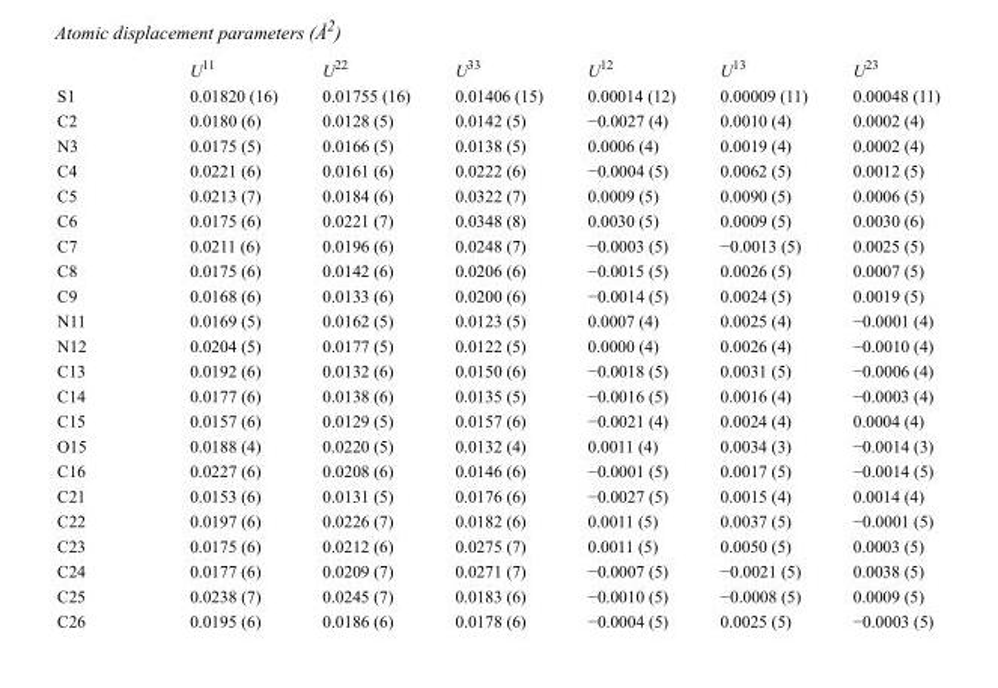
<table><thead><tr><td></td><td>U<sup>11</sup></td><td>U<sup>22</sup></td><td>U<sup>33</sup></td><td>U<sup>12</sup></td><td>U<sup>13</sup></td><td>U<sup>23</sup></td></tr></thead><tbody><tr><td>S1</td><td>0.01820 (16)</td><td>0.01755 (16)</td><td>0.01406 (15)</td><td>0.00014 (12)</td><td>0.00009 (11)</td><td>0.00048 (11)</td></tr><tr><td>C2</td><td>0.0180 (6)</td><td>0.0128 (5)</td><td>0.0142 (5)</td><td>−0.0027 (4)</td><td>0.0010 (4)</td><td>0.0002 (4)</td></tr><tr><td>N3</td><td>0.0175 (5)</td><td>0.0166 (5)</td><td>0.0138 (5)</td><td>0.0006 (4)</td><td>0.0019 (4)</td><td>0.0002 (4)</td></tr><tr><td>C4</td><td>0.0221 (6)</td><td>0.0161 (6)</td><td>0.0222 (6)</td><td>−0.0004 (5)</td><td>0.0062 (5)</td><td>0.0012 (5)</td></tr><tr><td>C5</td><td>0.0213 (7)</td><td>0.0184 (6)</td><td>0.0322 (7)</td><td>0.0009 (5)</td><td>0.0090 (5)</td><td>0.0006 (5)</td></tr><tr><td>C6</td><td>0.0175 (6)</td><td>0.0221 (7)</td><td>0.0348 (8)</td><td>0.0030 (5)</td><td>0.0009 (5)</td><td>0.0030 (6)</td></tr><tr><td>C7</td><td>0.0211 (6)</td><td>0.0196 (6)</td><td>0.0248 (7)</td><td>−0.0003 (5)</td><td>−0.0013 (5)</td><td>0.0025 (5)</td></tr><tr><td>C8</td><td>0.0175 (6)</td><td>0.0142 (6)</td><td>0.0206 (6)</td><td>−0.0015 (5)</td><td>0.0026 (5)</td><td>0.0007 (5)</td></tr><tr><td>C9</td><td>0.0168 (6)</td><td>0.0133 (6)</td><td>0.0200 (6)</td><td>−0.0014 (5)</td><td>0.0024 (5)</td><td>0.0019 (5)</td></tr><tr><td>N11</td><td>0.0169 (5)</td><td>0.0162 (5)</td><td>0.0123 (5)</td><td>0.0007 (4)</td><td>0.0025 (4)</td><td>−0.0001 (4)</td></tr><tr><td>N12</td><td>0.0204 (5)</td><td>0.0177 (5)</td><td>0.0122 (5)</td><td>0.0000 (4)</td><td>0.0026 (4)</td><td>−0.0010 (4)</td></tr><tr><td>C13</td><td>0.0192 (6)</td><td>0.0132 (6)</td><td>0.0150 (6)</td><td>−0.0018 (5)</td><td>0.0031 (5)</td><td>−0.0006 (4)</td></tr><tr><td>C14</td><td>0.0177 (6)</td><td>0.0138 (6)</td><td>0.0135 (5)</td><td>−0.0016 (5)</td><td>0.0016 (4)</td><td>−0.0003 (4)</td></tr><tr><td>C15</td><td>0.0157 (6)</td><td>0.0129 (5)</td><td>0.0157 (6)</td><td>−0.0021 (4)</td><td>0.0024 (4)</td><td>0.0004 (4)</td></tr><tr><td>O15</td><td>0.0188 (4)</td><td>0.0220 (5)</td><td>0.0132 (4)</td><td>0.0011 (4)</td><td>0.0034 (3)</td><td>−0.0014 (3)</td></tr><tr><td>C16</td><td>0.0227 (6)</td><td>0.0208 (6)</td><td>0.0146 (6)</td><td>−0.0001 (5)</td><td>0.0017 (5)</td><td>−0.0014 (5)</td></tr><tr><td>C21</td><td>0.0153 (6)</td><td>0.0131 (5)</td><td>0.0176 (6)</td><td>−0.0027 (5)</td><td>0.0015 (4)</td><td>0.0014 (4)</td></tr><tr><td>C22</td><td>0.0197 (6)</td><td>0.0226 (7)</td><td>0.0182 (6)</td><td>0.0011 (5)</td><td>0.0037 (5)</td><td>−0.0001 (5)</td></tr><tr><td>C23</td><td>0.0175 (6)</td><td>0.0212 (6)</td><td>0.0275 (7)</td><td>0.0011 (5)</td><td>0.0050 (5)</td><td>0.0003 (5)</td></tr><tr><td>C24</td><td>0.0177 (6)</td><td>0.0209 (7)</td><td>0.0271 (7)</td><td>−0.0007 (5)</td><td>−0.0021 (5)</td><td>0.0038 (5)</td></tr><tr><td>C25</td><td>0.0238 (7)</td><td>0.0245 (7)</td><td>0.0183 (6)</td><td>−0.0010 (5)</td><td>−0.0008 (5)</td><td>0.0009 (5)</td></tr><tr><td>C26</td><td>0.0195 (6)</td><td>0.0186 (6)</td><td>0.0178 (6)</td><td>−0.0004 (5)</td><td>0.0025 (5)</td><td>−0.0003 (5)</td></tr></tbody></table>